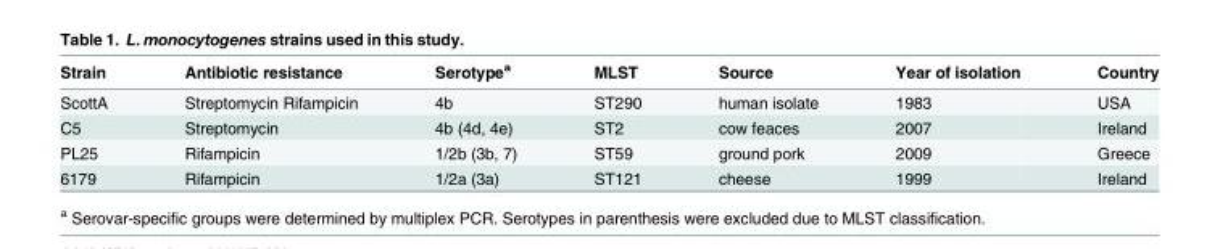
<table><thead><tr><td>Strain</td><td>Antibiotic resistance</td><td>Serotype<sup>a</sup></td><td>MLST</td><td>Source</td><td>Year of isolation</td><td>Country</td></tr></thead><tbody><tr><td>ScottA</td><td>Streptomycin Rifampicin</td><td>4b</td><td>ST290</td><td>human isolate</td><td>1983</td><td>USA</td></tr><tr><td>C5</td><td>Streptomycin</td><td>4b (4d, 4e)</td><td>ST2</td><td>cow feaces</td><td>2007</td><td>Ireland</td></tr><tr><td>PL25</td><td>Rifampicin</td><td>1/2b (3b, 7)</td><td>ST59</td><td>ground pork</td><td>2009</td><td>Greece</td></tr><tr><td>6179</td><td>Rifampicin</td><td>1/2a (3a)</td><td>ST121</td><td>cheese</td><td>1999</td><td>Ireland</td></tr></tbody></table>